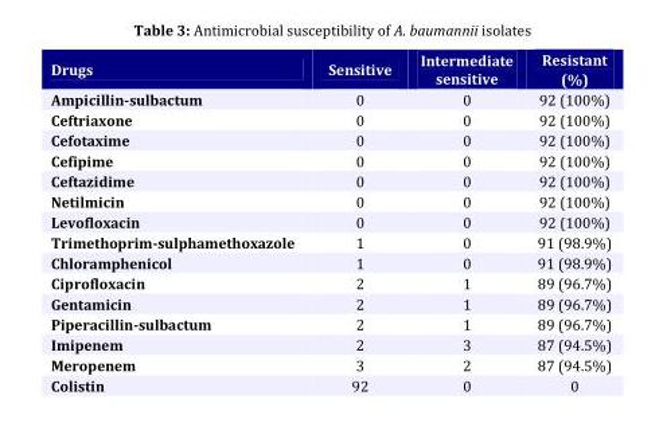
<table><thead><tr><td>Drugs</td><td>Sensitive</td><td>Intermediate sensitive</td><td>Resistant (%)</td></tr></thead><tbody><tr><td>Ampicillin-sulbactum</td><td>0</td><td>0</td><td>92 (100%)</td></tr><tr><td>Ceftriaxone</td><td>0</td><td>0</td><td>92 (100%)</td></tr><tr><td>Cefotaxime</td><td>0</td><td>0</td><td>92 (100%)</td></tr><tr><td>Cefipime</td><td>0</td><td>0</td><td>92 (100%)</td></tr><tr><td>Ceftazidime</td><td>0</td><td>0</td><td>92 (100%)</td></tr><tr><td>Netilmicin</td><td>0</td><td>0</td><td>92 (100%)</td></tr><tr><td>Levofloxacin</td><td>0</td><td>0</td><td>92 (100%)</td></tr><tr><td>Trimethoprim-sulphamethoxazole</td><td>1</td><td>0</td><td>91 (98.9%)</td></tr><tr><td>Chloramphenicol</td><td>1</td><td>0</td><td>91 (98.9%)</td></tr><tr><td>Ciprofloxacin</td><td>2</td><td>1</td><td>89 (96.7%)</td></tr><tr><td>Gentamicin</td><td>2</td><td>1</td><td>89 (96.7%)</td></tr><tr><td>Piperacillin-sulbactum</td><td>2</td><td>1</td><td>89 (96.7%)</td></tr><tr><td>Imipenem</td><td>2</td><td>3</td><td>87 (94.5%)</td></tr><tr><td>Meropenem</td><td>3</td><td>2</td><td>87 (94.5%)</td></tr><tr><td>Colistin</td><td>92</td><td>0</td><td>0</td></tr></tbody></table>